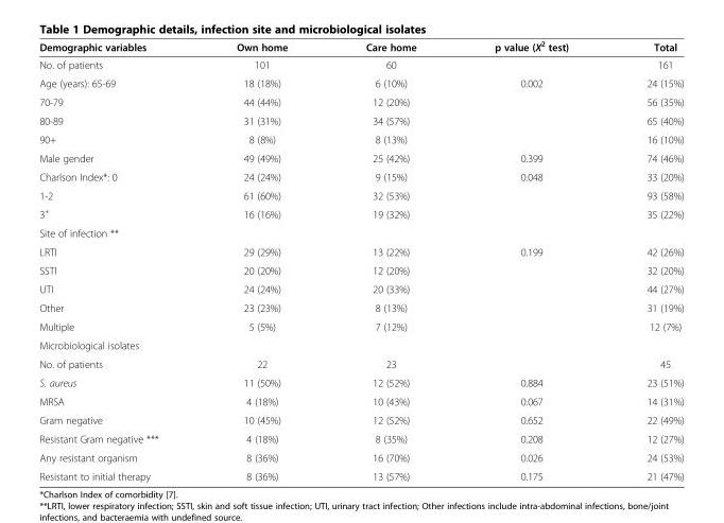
<table><thead><tr><td>Demographic variables</td><td>Own home</td><td>Care home</td><td>p value (X<sup>2</sup> test)</td><td>Total</td></tr></thead><tbody><tr><td>No. of patients</td><td>101</td><td>60</td><td></td><td>161</td></tr><tr><td>Age (years): 65-69</td><td>18 (18%)</td><td>6 (10%)</td><td>0.002</td><td>24 (15%)</td></tr><tr><td>70-79</td><td>44 (44%)</td><td>12 (20%)</td><td></td><td>56 (35%)</td></tr><tr><td>80-89</td><td>31 (31%)</td><td>34 (57%)</td><td></td><td>65 (40%)</td></tr><tr><td>90+</td><td>8 (8%)</td><td>8 (13%)</td><td></td><td>16 (10%)</td></tr><tr><td>Male gender</td><td>49 (49%)</td><td>25 (42%)</td><td>0.399</td><td>74 (46%)</td></tr><tr><td>Charlson Index*: 0</td><td>24 (24%)</td><td>9 (15%)</td><td>0.048</td><td>33 (20%)</td></tr><tr><td>1-2</td><td>61 (60%)</td><td>32 (53%)</td><td></td><td>93 (58%)</td></tr><tr><td>3<sup>+</sup></td><td>16 (16%)</td><td>19 (32%)</td><td></td><td>35 (22%)</td></tr><tr><td colspan="5">Site of infection **</td></tr><tr><td>LRTI</td><td>29 (29%)</td><td>13 (22%)</td><td>0.199</td><td>42 (26%)</td></tr><tr><td>SSTI</td><td>20 (20%)</td><td>12 (20%)</td><td></td><td>32 (20%)</td></tr><tr><td>UTI</td><td>24 (24%)</td><td>20 (33%)</td><td></td><td>44 (27%)</td></tr><tr><td>Other</td><td>23 (23%)</td><td>8 (13%)</td><td></td><td>31 (19%)</td></tr><tr><td>Multiple</td><td>5 (5%)</td><td>7 (12%)</td><td></td><td>12 (7%)</td></tr><tr><td colspan="5">Microbiological isolates</td></tr><tr><td>No. of patients</td><td>22</td><td>23</td><td></td><td>45</td></tr><tr><td>S. aureus</td><td>11 (50%)</td><td>12 (52%)</td><td>0.884</td><td>23 (51%)</td></tr><tr><td>MRSA</td><td>4 (18%)</td><td>10 (43%)</td><td>0.067</td><td>14 (31%)</td></tr><tr><td>Gram negative</td><td>10 (45%)</td><td>12 (52%)</td><td>0.652</td><td>22 (49%)</td></tr><tr><td>Resistant Gram negative ***</td><td>4 (18%)</td><td>8 (35%)</td><td>0.208</td><td>12 (27%)</td></tr><tr><td>Any resistant organism</td><td>8 (36%)</td><td>16 (70%)</td><td>0.026</td><td>24 (53%)</td></tr><tr><td>Resistant to initial therapy</td><td>8 (36%)</td><td>13 (57%)</td><td>0.175</td><td>21 (47%)</td></tr></tbody></table>